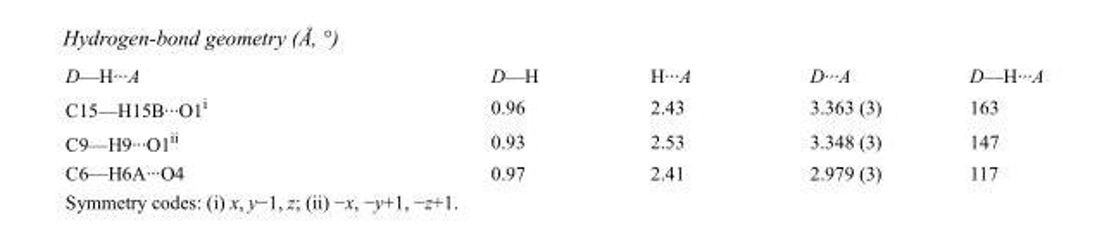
<table><tbody><tr><td>D—H···A</td><td>D—H</td><td>H···A</td><td>D···A</td><td>D—H···A</td></tr><tr><td>C15—H15B···O1<sup>i</sup></td><td>0.96</td><td>2.43</td><td>3.363 (3)</td><td>163</td></tr><tr><td>C9—H9···O1<sup>ii</sup></td><td>0.93</td><td>2.53</td><td>3.348 (3)</td><td>147</td></tr><tr><td>C6—H6A···O4</td><td>0.97</td><td>2.41</td><td>2.979 (3)</td><td>117</td></tr></tbody></table>